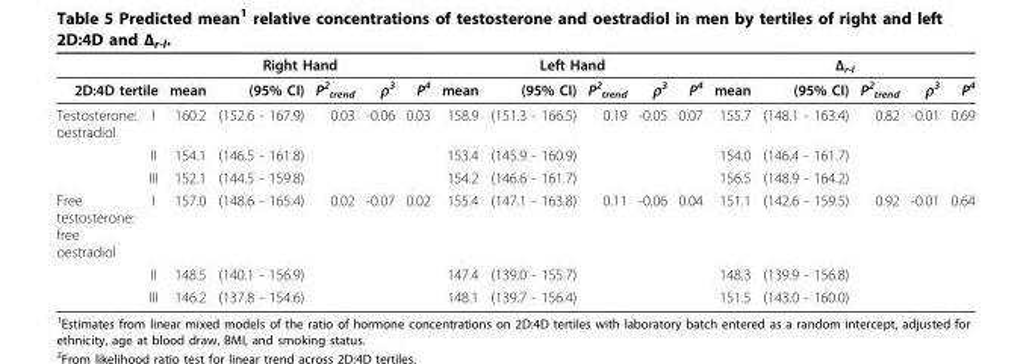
<table><thead><tr><td></td><td></td><td colspan="5">Right Hand</td><td colspan="5">Left Hand</td><td colspan="5">Δ<sub>r-l</sub></td></tr><tr><td colspan="2">2D:4D tertile</td><td>mean</td><td>(95% CI)</td><td>P<sup>2</sup> <sub>trend</sub></td><td>ρ<sup>3</sup></td><td>P<sup>4</sup></td><td>mean</td><td>(95% CI)</td><td>P<sup>2</sup> <sub>trend</sub></td><td>ρ<sup>3</sup></td><td>P<sup>4</sup></td><td>mean</td><td>(95% CI)</td><td>P<sup>2</sup> <sub>trend</sub></td><td>ρ<sup>3</sup></td><td>P<sup>4</sup></td></tr></thead><tbody><tr><td rowspan="3">Testosterone: oestradiol</td><td>I</td><td>160.2</td><td>(152.6 - 167.9)</td><td>0.03</td><td>-0.06</td><td>0.03</td><td>158.9</td><td>(151.3 - 166.5)</td><td>0.19</td><td>-0.05</td><td>0.07</td><td>155.7</td><td>(148.1 - 163.4)</td><td>0.82</td><td>-0.01</td><td>0.69</td></tr><tr><td>II</td><td>154.1</td><td>(146.5 - 161.8)</td><td></td><td></td><td></td><td>153.4</td><td>(145.9 - 160.9)</td><td></td><td></td><td></td><td>154.0</td><td>(146.4 - 161.7)</td><td></td><td></td><td></td></tr><tr><td>III</td><td>152.1</td><td>(144.5 - 159.8)</td><td></td><td></td><td></td><td>154.2</td><td>(146.6 - 161.7)</td><td></td><td></td><td></td><td>156.5</td><td>(148.9 - 164.2)</td><td></td><td></td><td></td></tr><tr><td rowspan="3">Free testosterone: free oestradiol</td><td>I</td><td>157.0</td><td>(148.6 - 165.4)</td><td>0.02</td><td>-0.07</td><td>0.02</td><td>155.4</td><td>(147.1 - 163.8)</td><td>0.11</td><td>-0.06</td><td>0.04</td><td>151.1</td><td>(142.6 - 159.5)</td><td>0.92</td><td>-0.01</td><td>0.64</td></tr><tr><td>II</td><td>148.5</td><td>(140.1 - 156.9)</td><td></td><td></td><td></td><td>147.4</td><td>(139.0 - 155.7)</td><td></td><td></td><td></td><td>148.3</td><td>(139.9 - 156.8)</td><td></td><td></td><td></td></tr><tr><td>III</td><td>146.2</td><td>(137.8 - 154.6)</td><td></td><td></td><td></td><td>148.1</td><td>(139.7 - 156.4)</td><td></td><td></td><td></td><td>151.5</td><td>(143.0 - 160.0)</td><td></td><td></td><td></td></tr></tbody></table>